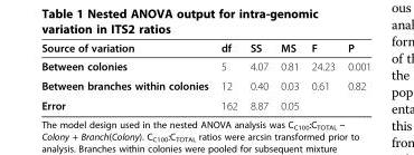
<table><thead><tr><td>Source of variation</td><td>df</td><td>SS</td><td>MS</td><td>F</td><td>P</td></tr></thead><tbody><tr><td>Between colonies</td><td>5</td><td>4.07</td><td>0.81</td><td>24.23</td><td>0.001</td></tr><tr><td>Between branches within colonies</td><td>12</td><td>0.40</td><td>0.03</td><td>0.61</td><td>0.82</td></tr><tr><td>Error</td><td>162</td><td>8.87</td><td>0.05</td><td></td><td></td></tr></tbody></table>